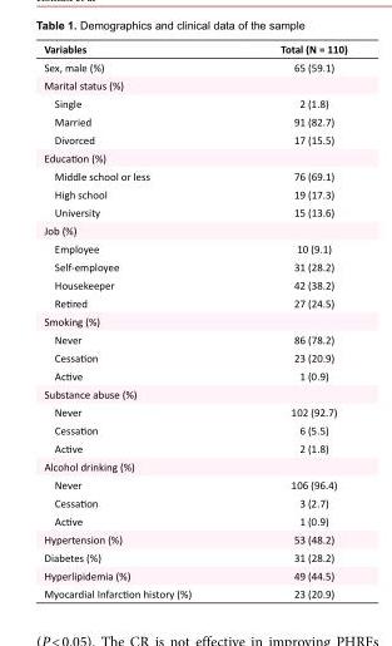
<table><tbody><tr><td>Variables</td><td>Total (N = 110)</td></tr><tr><td>Sex, male (%)</td><td>65 (59.1)</td></tr><tr><td colspan="2">Marital status (%)</td></tr><tr><td>Single</td><td>2 (1.8)</td></tr><tr><td>Married</td><td>91 (82.7)</td></tr><tr><td>Divorced</td><td>17 (15.5)</td></tr><tr><td colspan="2">Education (%)</td></tr><tr><td>Middle school or less</td><td>76 (69.1)</td></tr><tr><td>High school</td><td>19 (17.3)</td></tr><tr><td>University</td><td>15 (13.6)</td></tr><tr><td colspan="2">Job (%)</td></tr><tr><td>Employee</td><td>10 (9.1)</td></tr><tr><td>Self-employee</td><td>31 (28.2)</td></tr><tr><td>Housekeeper</td><td>42 (38.2)</td></tr><tr><td>Retired</td><td>27 (24.5)</td></tr><tr><td colspan="2">Smoking (%)</td></tr><tr><td>Never</td><td>86 (78.2)</td></tr><tr><td>Cessation</td><td>23 (20.9)</td></tr><tr><td>Active</td><td>1 (0.9)</td></tr><tr><td colspan="2">Substance abuse (%)</td></tr><tr><td>Never</td><td>102 (92.7)</td></tr><tr><td>Cessation</td><td>6 (5.5)</td></tr><tr><td>Active</td><td>2 (1.8)</td></tr><tr><td colspan="2">Alcohol drinking (%)</td></tr><tr><td>Never</td><td>106 (96.4)</td></tr><tr><td>Cessation</td><td>3 (2.7)</td></tr><tr><td>Active</td><td>1 (0.9)</td></tr><tr><td>Hypertension (%)</td><td>53 (48.2)</td></tr><tr><td>Diabetes (%)</td><td>31 (28.2)</td></tr><tr><td>Hyperlipidemia (%)</td><td>49 (44.5)</td></tr><tr><td>Myocardial Infarction history (%)</td><td>23 (20.9)</td></tr></tbody></table>